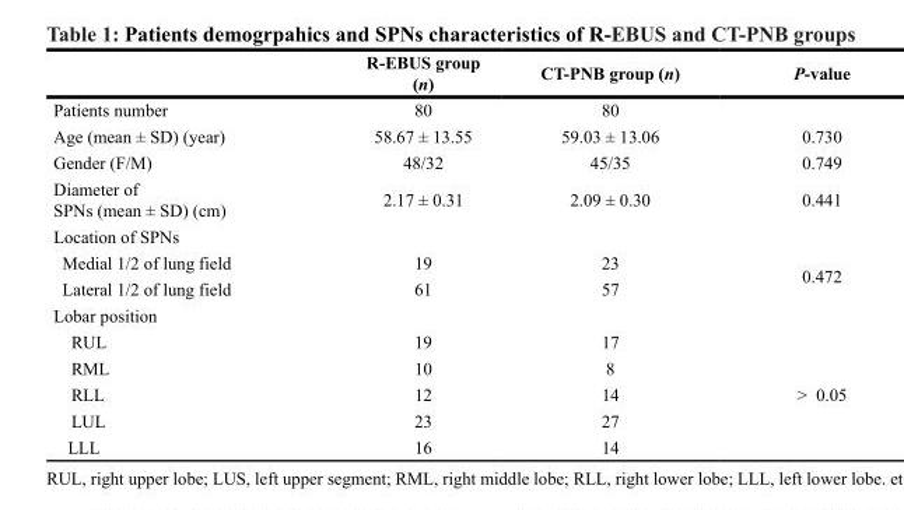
<table><thead><tr><td></td><td>R-EBUS group (n)</td><td>CT-PNB group (n)</td><td>P-value</td></tr></thead><tbody><tr><td>Patients number</td><td>80</td><td>80</td><td></td></tr><tr><td>Age (mean ± SD) (year)</td><td>58.67 ± 13.55</td><td>59.03 ± 13.06</td><td>0.730</td></tr><tr><td>Gender (F/M)</td><td>48/32</td><td>45/35</td><td>0.749</td></tr><tr><td>Diameter of SPNs (mean ± SD) (cm)</td><td>2.17 ± 0.31</td><td>2.09 ± 0.30</td><td>0.441</td></tr><tr><td colspan="4">Location of SPNs</td></tr><tr><td>Medial 1/2 of lung field</td><td>19</td><td>23</td><td rowspan="2">0.472</td></tr><tr><td>Lateral 1/2 of lung field</td><td>61</td><td>57</td></tr><tr><td colspan="4">Lobar position</td></tr><tr><td>RUL</td><td>19</td><td>17</td><td rowspan="5">&gt; 0.05</td></tr><tr><td>RML</td><td>10</td><td>8</td></tr><tr><td>RLL</td><td>12</td><td>14</td></tr><tr><td>LUL</td><td>23</td><td>27</td></tr><tr><td>LLL</td><td>16</td><td>14</td></tr></tbody></table>